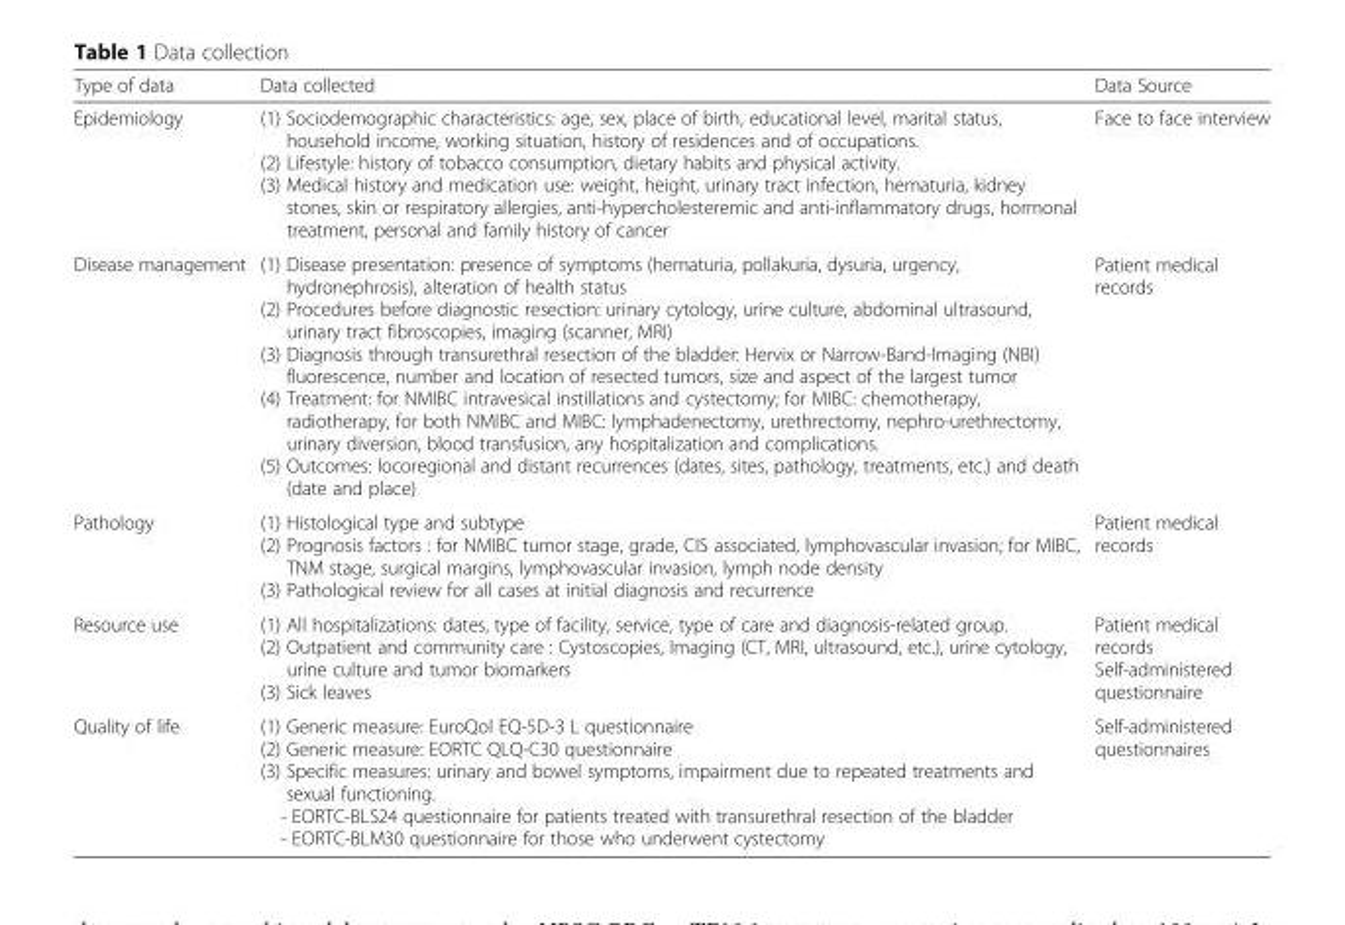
<table><thead><tr><td>Type of data</td><td>Data collected</td><td>Data Source</td></tr></thead><tbody><tr><td>Epidemiology</td><td>(1) Sociodemographic characteristics: age, sex, place of birth, educational level, marital status, household income, working situation, history of residences and of occupations. (2) Lifestyle: history of tobacco consumption, dietary habits and physical activity. (3) Medical history and medication use: weight, height, urinary tract infection, hematuria, kidney stones, skin or respiratory allergies, anti-hypercholesteremic and anti-inflammatory drugs, hormonal treatment, personal and family history of cancer</td><td>Face to face interview</td></tr><tr><td>Disease management</td><td>(1) Disease presentation: presence of symptoms (hematuria, pollakuria, dysuria, urgency, hydronephrosis), alteration of health status (2) Procedures before diagnostic resection: urinary cytology, urine culture, abdominal ultrasound, urinary tract fibroscopies, imaging (scanner, MRI) (3) Diagnosis through transurethral resection of the bladder: Hervix or Narrow-Band-Imaging (NBI) fluorescence, number and location of resected tumors, size and aspect of the largest tumor (4) Treatment: for NMIBC intravesical instillations and cystectomy; for MIBC: chemotherapy, radiotherapy, for both NMIBC and MIBC: lymphadenectomy, urethrectomy, nephro-urethrectomy, urinary diversion, blood transfusion, any hospitalization and complications. (5) Outcomes: locoregional and distant recurrences (dates, sites, pathology, treatments, etc.) and death (date and place)</td><td>Patient medical records</td></tr><tr><td>Pathology</td><td>(1) Histological type and subtype (2) Prognosis factors : for NMIBC tumor stage, grade, CIS associated, lymphovascular invasion; for MIBC, TNM stage, surgical margins, lymphovascular invasion, lymph node density (3) Pathological review for all cases at initial diagnosis and recurrence</td><td>Patient medical records</td></tr><tr><td>Resource use</td><td>(1) All hospitalizations: dates, type of facility, service, type of care and diagnosis-related group. (2) Outpatient and community care : Cystoscopies, Imaging (CT, MRI, ultrasound, etc.), urine cytology, urine culture and tumor biomarkers (3) Sick leaves</td><td>Patient medical records Self-administered questionnaire</td></tr><tr><td>Quality of life</td><td>(1) Generic measure: EuroQol EQ-5D-3 L questionnaire (2) Generic measure: EORTC QLQ-C30 questionnaire (3) Specific measures: urinary and bowel symptoms, impairment due to repeated treatments and sexual functioning. - EORTC-BLS24 questionnaire for patients treated with transurethral resection of the bladder - EORTC-BLM30 questionnaire for those who underwent cystectomy</td><td>Self-administered questionnaires</td></tr></tbody></table>